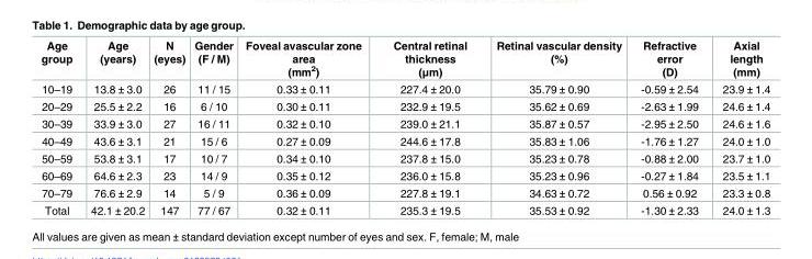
<table><thead><tr><td>Age group</td><td>Age (years)</td><td>N (eyes)</td><td>Gender (F / M)</td><td>Foveal avascular zone area (mm<sup>2</sup>)</td><td>Central retinal thickness (μm)</td><td>Retinal vascular density (%)</td><td>Refractive error (D)</td><td>Axial length (mm)</td></tr></thead><tbody><tr><td>10–19</td><td>13.8 ± 3.0</td><td>26</td><td>11 / 15</td><td>0.33 ± 0.11</td><td>227.4 ± 20.0</td><td>35.79 ± 0.90</td><td>-0.59 ± 2.54</td><td>23.9 ± 1.4</td></tr><tr><td>20–29</td><td>25.5 ± 2.2</td><td>16</td><td>6 / 10</td><td>0.30 ± 0.11</td><td>232.9 ± 19.5</td><td>35.62 ± 0.69</td><td>-2.63 ± 1.99</td><td>24.6 ± 1.4</td></tr><tr><td>30–39</td><td>33.9 ± 3.0</td><td>27</td><td>16 / 11</td><td>0.32 ± 0.10</td><td>239.0 ± 21.1</td><td>35.87 ± 0.57</td><td>-2.95 ± 2.50</td><td>24.6 ± 1.6</td></tr><tr><td>40–49</td><td>43.6 ± 3.1</td><td>21</td><td>15 / 6</td><td>0.27 ± 0.09</td><td>244.6 ± 17.8</td><td>35.83 ± 1.06</td><td>-1.76 ± 1.27</td><td>24.0 ± 1.0</td></tr><tr><td>50–59</td><td>53.8 ± 3.1</td><td>17</td><td>10 / 7</td><td>0.34 ± 0.10</td><td>237.8 ± 15.0</td><td>35.23 ± 0.78</td><td>-0.88 ± 2.00</td><td>23.7 ± 1.0</td></tr><tr><td>60–69</td><td>64.6 ± 2.3</td><td>23</td><td>14 / 9</td><td>0.35 ± 0.12</td><td>236.0 ± 15.8</td><td>35.23 ± 0.96</td><td>-0.27 ± 1.84</td><td>23.5 ± 1.1</td></tr><tr><td>70–79</td><td>76.6 ± 2.9</td><td>14</td><td>5 / 9</td><td>0.36 ± 0.09</td><td>227.8 ± 19.1</td><td>34.63 ± 0.72</td><td>0.56 ± 0.92</td><td>23.3 ± 0.8</td></tr><tr><td>Total</td><td>42.1 ± 20.2</td><td>147</td><td>77 / 67</td><td>0.32 ± 0.11</td><td>235.3 ± 19.5</td><td>35.53 ± 0.92</td><td>-1.30 ± 2.33</td><td>24.0 ± 1.3</td></tr></tbody></table>